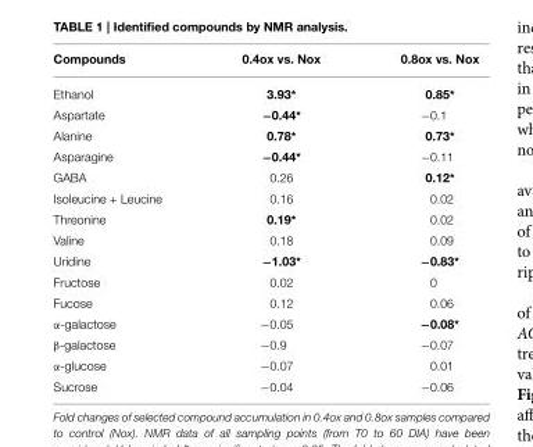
<table><thead><tr><td>Compounds</td><td>0.4ox vs. Nox</td><td>0.8ox vs. Nox</td></tr></thead><tbody><tr><td>Ethanol</td><td>3.93*</td><td>0.85*</td></tr><tr><td>Aspartate</td><td>−0.44*</td><td>−0.1</td></tr><tr><td>Alanine</td><td>0.78*</td><td>0.73*</td></tr><tr><td>Asparagine</td><td>−0.44*</td><td>−0.11</td></tr><tr><td>GABA</td><td>0.26</td><td>0.12*</td></tr><tr><td>Isoleucine + Leucine</td><td>0.16</td><td>0.02</td></tr><tr><td>Threonine</td><td>0.19*</td><td>0.02</td></tr><tr><td>Valine</td><td>0.18</td><td>0.09</td></tr><tr><td>Uridine</td><td>−1.03*</td><td>−0.83*</td></tr><tr><td>Fructose</td><td>0.02</td><td>0</td></tr><tr><td>Fucose</td><td>0.12</td><td>0.06</td></tr><tr><td>α-galactose</td><td>−0.05</td><td>−0.08*</td></tr><tr><td>β-galactose</td><td>−0.9</td><td>−0.07</td></tr><tr><td>α-glucose</td><td>−0.07</td><td>0.01</td></tr><tr><td>Sucrose</td><td>−0.04</td><td>−0.06</td></tr></tbody></table>